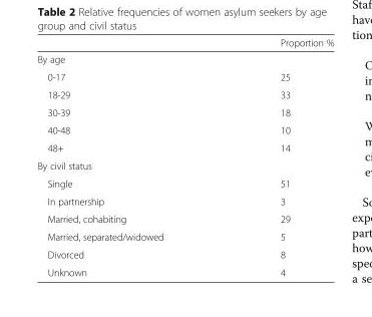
<table><thead><tr><td></td><td>Proportion %</td></tr></thead><tbody><tr><td colspan="2">By age</td></tr><tr><td>0-17</td><td>25</td></tr><tr><td>18-29</td><td>33</td></tr><tr><td>30-39</td><td>18</td></tr><tr><td>40-48</td><td>10</td></tr><tr><td>48+</td><td>14</td></tr><tr><td colspan="2">By civil status</td></tr><tr><td>Single</td><td>51</td></tr><tr><td>In partnership</td><td>3</td></tr><tr><td>Married, cohabiting</td><td>29</td></tr><tr><td>Married, separated/widowed</td><td>5</td></tr><tr><td>Divorced</td><td>8</td></tr><tr><td>Unknown</td><td>4</td></tr></tbody></table>